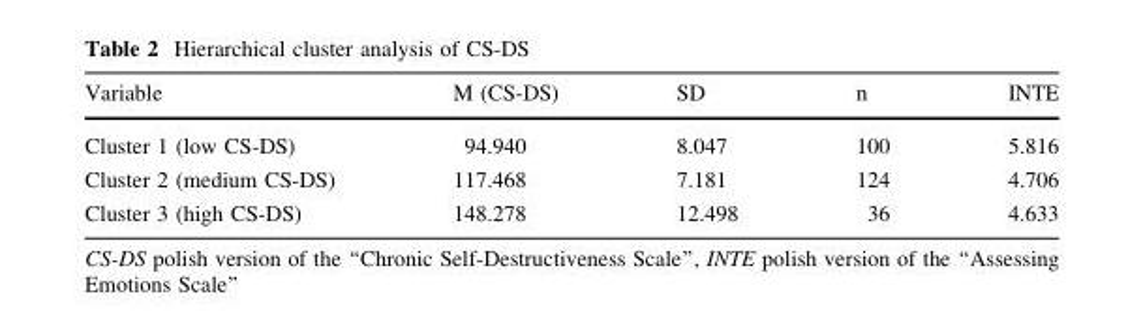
<table><thead><tr><td>Variable</td><td>M (CS-DS)</td><td>SD</td><td>n</td><td>INTE</td></tr></thead><tbody><tr><td>Cluster 1 (low CS-DS)</td><td>94.940</td><td>8.047</td><td>100</td><td>5.816</td></tr><tr><td>Cluster 2 (medium CS-DS)</td><td>117.468</td><td>7.181</td><td>124</td><td>4.706</td></tr><tr><td>Cluster 3 (high CS-DS)</td><td>148.278</td><td>12.498</td><td>36</td><td>4.633</td></tr></tbody></table>